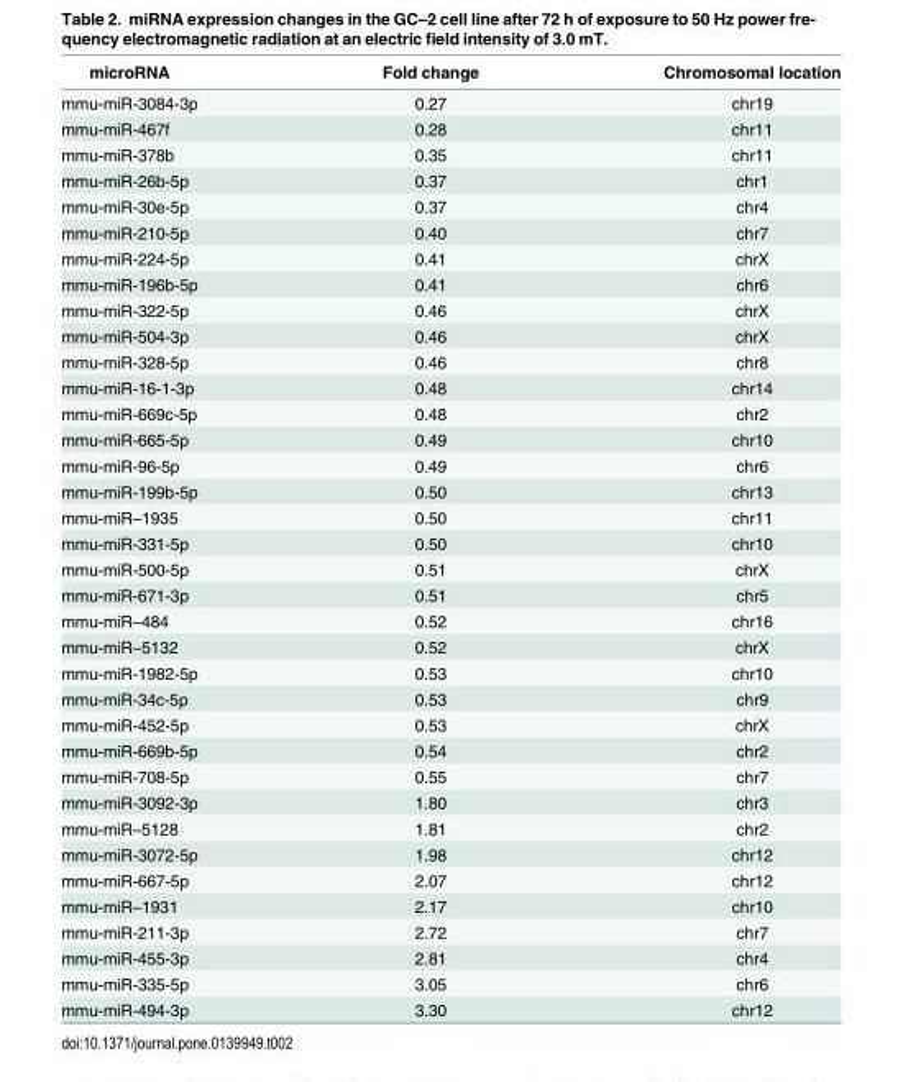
<table><thead><tr><td>microRNA</td><td>Fold change</td><td>Chromosomal location</td></tr></thead><tbody><tr><td>mmu-miR-3084-3p</td><td>0.27</td><td>chr19</td></tr><tr><td>mmu-miR-467f</td><td>0.28</td><td>chr11</td></tr><tr><td>mmu-miR-378b</td><td>0.35</td><td>chr11</td></tr><tr><td>mmu-miR-26b-5p</td><td>0.37</td><td>chr1</td></tr><tr><td>mmu-miR-30e-5p</td><td>0.37</td><td>chr4</td></tr><tr><td>mmu-miR-210-5p</td><td>0.40</td><td>chr7</td></tr><tr><td>mmu-miR-224-5p</td><td>0.41</td><td>chrX</td></tr><tr><td>mmu-miR-196b-5p</td><td>0.41</td><td>chr6</td></tr><tr><td>mmu-miR-322-5p</td><td>0.46</td><td>chrX</td></tr><tr><td>mmu-miR-504-3p</td><td>0.46</td><td>chrX</td></tr><tr><td>mmu-miR-328-5p</td><td>0.46</td><td>chr8</td></tr><tr><td>mmu-miR-16-1-3p</td><td>0.48</td><td>chr14</td></tr><tr><td>mmu-miR-669c-5p</td><td>0.48</td><td>chr2</td></tr><tr><td>mmu-miR-665-5p</td><td>0.49</td><td>chr10</td></tr><tr><td>mmu-miR-96-5p</td><td>0.49</td><td>chr6</td></tr><tr><td>mmu-miR-199b-5p</td><td>0.50</td><td>chr13</td></tr><tr><td>mmu-miR–1935</td><td>0.50</td><td>chr11</td></tr><tr><td>mmu-miR-331-5p</td><td>0.50</td><td>chr10</td></tr><tr><td>mmu-miR-500-5p</td><td>0.51</td><td>chrX</td></tr><tr><td>mmu-miR-671-3p</td><td>0.51</td><td>chr5</td></tr><tr><td>mmu-miR–484</td><td>0.52</td><td>chr16</td></tr><tr><td>mmu-miR–5132</td><td>0.52</td><td>chrX</td></tr><tr><td>mmu-miR-1982-5p</td><td>0.53</td><td>chr10</td></tr><tr><td>mmu-miR-34c-5p</td><td>0.53</td><td>chr9</td></tr><tr><td>mmu-miR-452-5p</td><td>0.53</td><td>chrX</td></tr><tr><td>mmu-miR-669b-5p</td><td>0.54</td><td>chr2</td></tr><tr><td>mmu-miR-708-5p</td><td>0.55</td><td>chr7</td></tr><tr><td>mmu-miR-3092-3p</td><td>1.80</td><td>chr3</td></tr><tr><td>mmu-miR–5128</td><td>1.81</td><td>chr2</td></tr><tr><td>mmu-miR-3072-5p</td><td>1.98</td><td>chr12</td></tr><tr><td>mmu-miR-667-5p</td><td>2.07</td><td>chr12</td></tr><tr><td>mmu-miR–1931</td><td>2.17</td><td>chr10</td></tr><tr><td>mmu-miR-211-3p</td><td>2.72</td><td>chr7</td></tr><tr><td>mmu-miR-455-3p</td><td>2.81</td><td>chr4</td></tr><tr><td>mmu-miR-335-5p</td><td>3.05</td><td>chr6</td></tr><tr><td>mmu-miR-494-3p</td><td>3.30</td><td>chr12</td></tr></tbody></table>